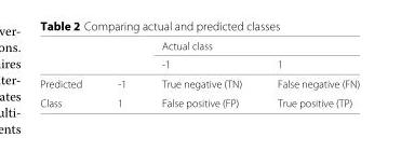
<table><thead><tr><td rowspan="2"></td><td rowspan="2"></td><td colspan="2">Actual class</td></tr><tr><td>-1</td><td>1</td></tr></thead><tbody><tr><td>Predicted</td><td>-1</td><td>True negative (TN)</td><td>False negative (FN)</td></tr><tr><td>Class</td><td>1</td><td>False positive (FP)</td><td>True positive (TP)</td></tr></tbody></table>